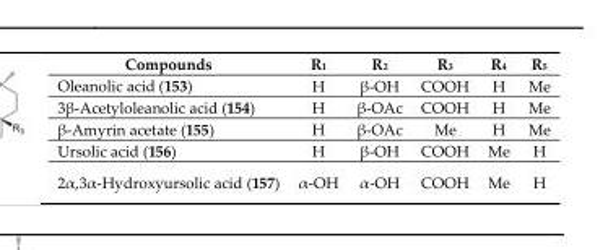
<table><tbody><tr><td>Compounds</td><td>R<sub>1</sub></td><td>R<sub>2</sub></td><td>R<sub>3</sub></td><td>R<sub>4</sub></td><td>R<sub>5</sub></td></tr><tr><td>Oleanolic acid (153)</td><td>H</td><td>β-OH</td><td>COOH</td><td>H</td><td>Me</td></tr><tr><td>3β-Acetyloleanolic acid (154)</td><td>H</td><td>β-OAc</td><td>COOH</td><td>H</td><td>Me</td></tr><tr><td>β-Amyrin acetate (155)</td><td>H</td><td>β-OAc</td><td>Me</td><td>H</td><td>Me</td></tr><tr><td>Ursolic acid (156)</td><td>H</td><td>β-OH</td><td>COOH</td><td>Me</td><td>H</td></tr><tr><td>2α,3α-Hydroxyursolic acid (157)</td><td>α-OH</td><td>α-OH</td><td>COOH</td><td>Me</td><td>H</td></tr></tbody></table>